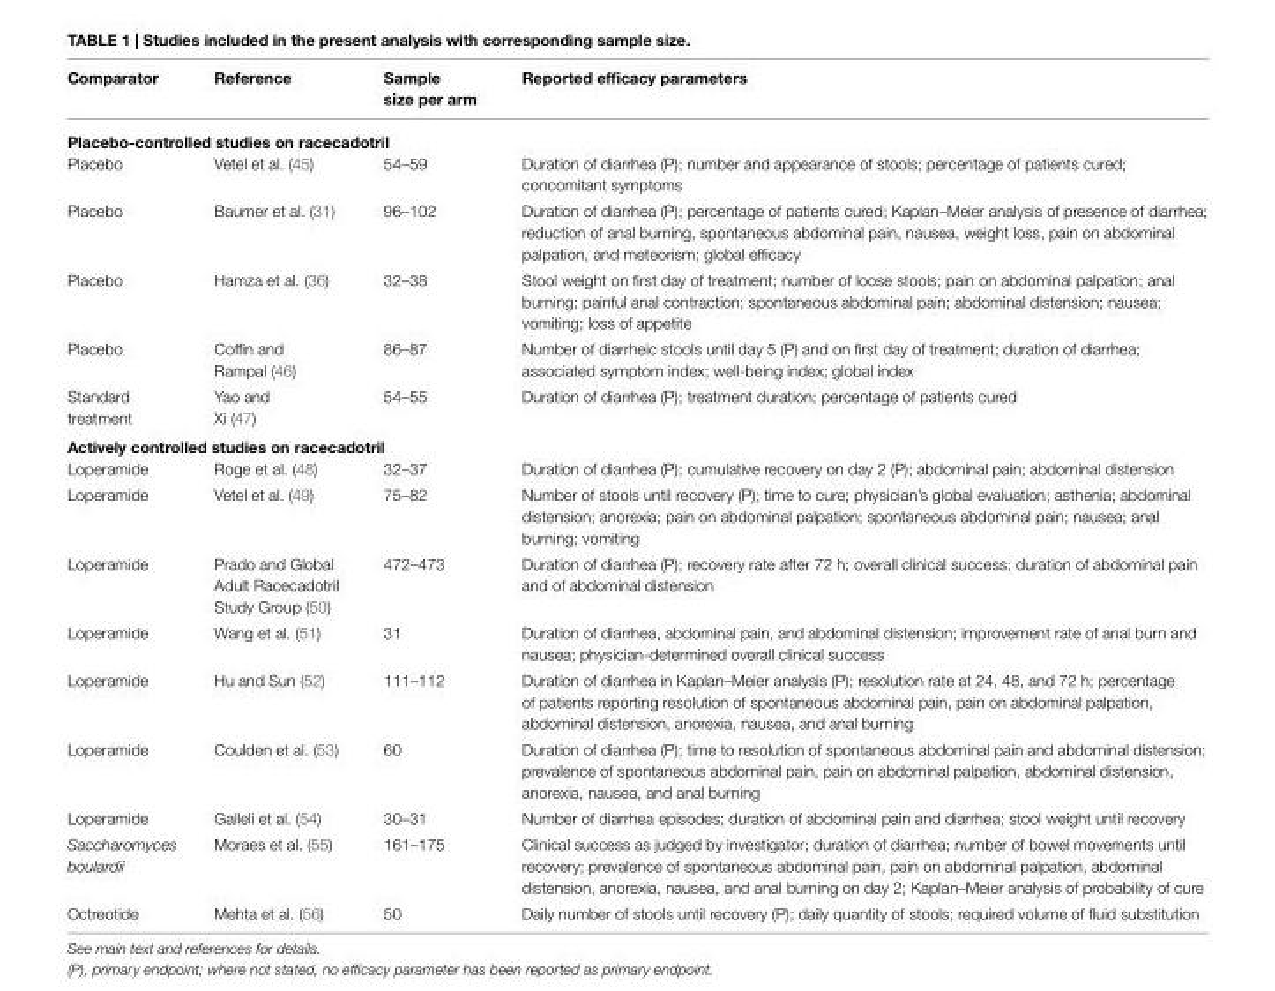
<table><thead><tr><td>Comparator</td><td>Reference</td><td>Sample size per arm</td><td>Reported efficacy parameters</td></tr></thead><tbody><tr><td colspan="4">Placebo-controlled studies on racecadotril</td></tr><tr><td>Placebo</td><td>Vetel et al. (45)</td><td>54–59</td><td>Duration of diarrhea (P); number and appearance of stools; percentage of patients cured; concomitant symptoms</td></tr><tr><td>Placebo</td><td>Baumer et al. (31)</td><td>96–102</td><td>Duration of diarrhea (P); percentage of patients cured; Kaplan–Meier analysis of presence of diarrhea; reduction of anal burning, spontaneous abdominal pain, nausea, weight loss, pain on abdominal palpation, and meteorism; global efficacy</td></tr><tr><td>Placebo</td><td>Hamza et al. (36)</td><td>32–38</td><td>Stool weight on first day of treatment; number of loose stools; pain on abdominal palpation; anal burning; painful anal contraction; spontaneous abdominal pain; abdominal distension; nausea; vomiting; loss of appetite</td></tr><tr><td>Placebo</td><td>Coffin and Rampal (46)</td><td>86–87</td><td>Number of diarrheic stools until day 5 (P) and on first day of treatment; duration of diarrhea; associated symptom index; well-being index; global index</td></tr><tr><td>Standard treatment</td><td>Yao and Xi (47)</td><td>54–55</td><td>Duration of diarrhea (P); treatment duration; percentage of patients cured</td></tr><tr><td colspan="4">Actively controlled studies on racecadotril</td></tr><tr><td>Loperamide</td><td>Roge et al. (48)</td><td>32–37</td><td>Duration of diarrhea (P); cumulative recovery on day 2 (P); abdominal pain; abdominal distension</td></tr><tr><td>Loperamide</td><td>Vetel et al. (49)</td><td>75–82</td><td>Number of stools until recovery (P); time to cure; physician’s global evaluation; asthenia; abdominal distension; anorexia; pain on abdominal palpation; spontaneous abdominal pain; nausea; anal burning; vomiting</td></tr><tr><td>Loperamide</td><td>Prado and Global Adult Racecadotril Study Group (50)</td><td>472–473</td><td>Duration of diarrhea (P); recovery rate after 72 h; overall clinical success; duration of abdominal pain and of abdominal distension</td></tr><tr><td>Loperamide</td><td>Wang et al. (51)</td><td>31</td><td>Duration of diarrhea, abdominal pain, and abdominal distension; improvement rate of anal burn and nausea; physician-determined overall clinical success</td></tr><tr><td>Loperamide</td><td>Hu and Sun (52)</td><td>111–112</td><td>Duration of diarrhea in Kaplan–Meier analysis (P); resolution rate at 24, 48, and 72 h; percentage of patients reporting resolution of spontaneous abdominal pain, pain on abdominal palpation, abdominal distension, anorexia, nausea, and anal burning</td></tr><tr><td>Loperamide</td><td>Coulden et al. (53)</td><td>60</td><td>Duration of diarrhea (P); time to resolution of spontaneous abdominal pain and abdominal distension; prevalence of spontaneous abdominal pain, pain on abdominal palpation, abdominal distension, anorexia, nausea, and anal burning</td></tr><tr><td>Loperamide</td><td>Galleli et al. (54)</td><td>30–31</td><td>Number of diarrhea episodes; duration of abdominal pain and diarrhea; stool weight until recovery</td></tr><tr><td>Saccharomyces boulardii</td><td>Moraes et al. (55)</td><td>161–175</td><td>Clinical success as judged by investigator; duration of diarrhea; number of bowel movements until recovery; prevalence of spontaneous abdominal pain, pain on abdominal palpation, abdominal distension, anorexia, nausea, and anal burning on day 2; Kaplan–Meier analysis of probability of cure</td></tr><tr><td>Octreotide</td><td>Mehta et al. (56)</td><td>50</td><td>Daily number of stools until recovery (P); daily quantity of stools; required volume of fluid substitution</td></tr></tbody></table>